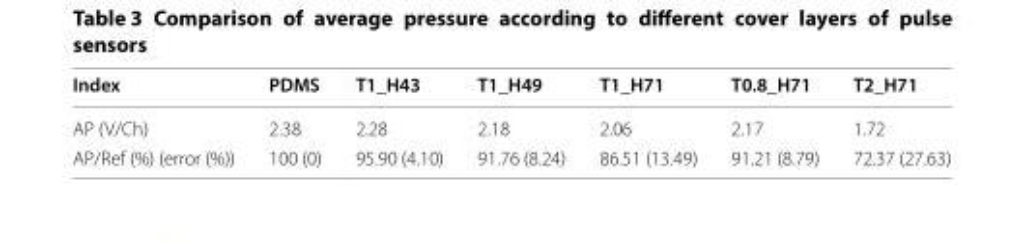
<table><thead><tr><td>Index</td><td>PDMS</td><td>T1_H43</td><td>T1_H49</td><td>T1_H71</td><td>T0.8_H71</td><td>T2_H71</td></tr></thead><tbody><tr><td>AP (V/Ch)</td><td>2.38</td><td>2.28</td><td>2.18</td><td>2.06</td><td>2.17</td><td>1.72</td></tr><tr><td>AP/Ref (%) (error (%))</td><td>100 (0)</td><td>95.90 (4.10)</td><td>91.76 (8.24)</td><td>86.51 (13.49)</td><td>91.21 (8.79)</td><td>72.37 (27.63)</td></tr></tbody></table>